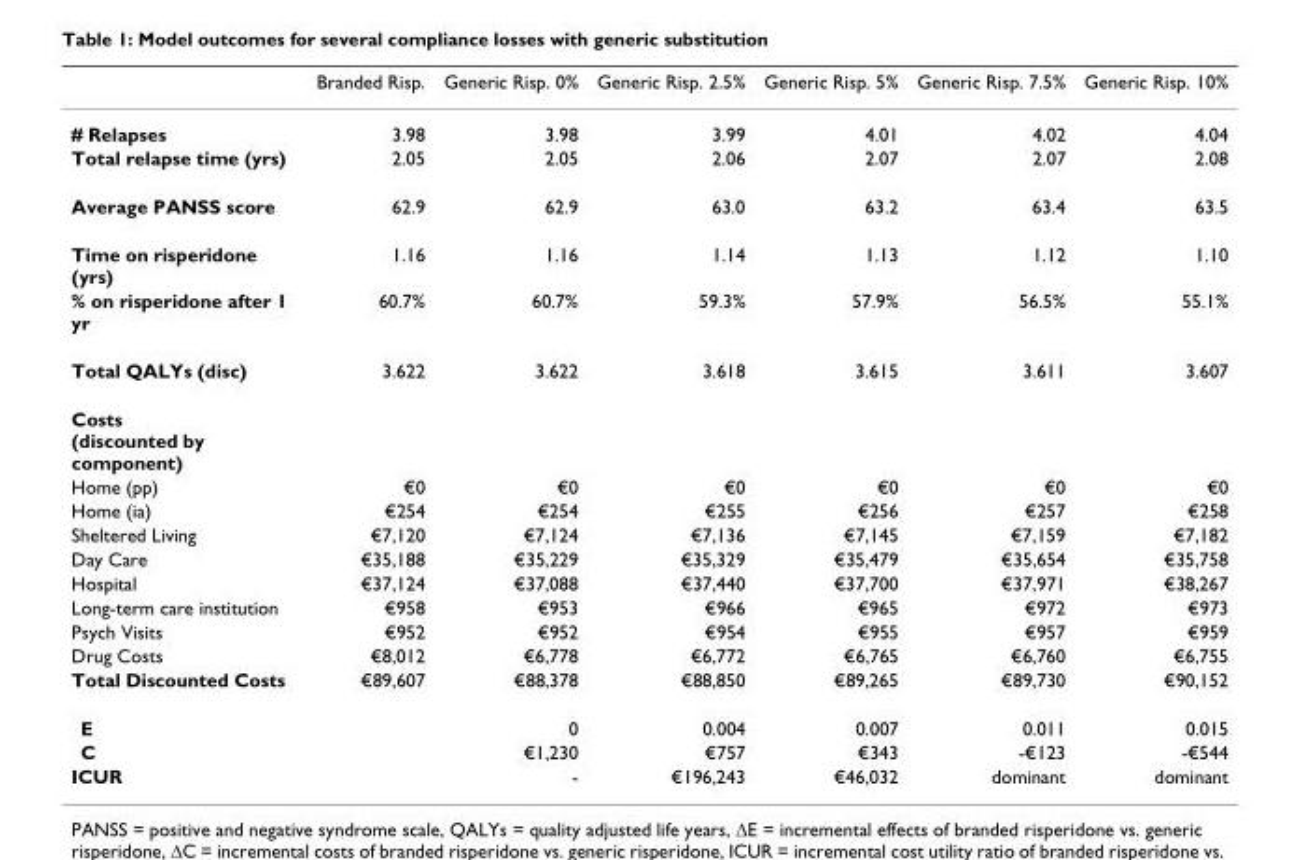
<table><thead><tr><td></td><td>Branded Risp.</td><td>Generic Risp. 0%</td><td>Generic Risp. 2.5%</td><td>Generic Risp. 5%</td><td>Generic Risp. 7.5%</td><td>Generic Risp. 10%</td></tr></thead><tbody><tr><td># Relapses</td><td>3.98</td><td>3.98</td><td>3.99</td><td>4.01</td><td>4.02</td><td>4.04</td></tr><tr><td>Total relapse time (yrs)</td><td>2.05</td><td>2.05</td><td>2.06</td><td>2.07</td><td>2.07</td><td>2.08</td></tr><tr><td>Average PANSS score</td><td>62.9</td><td>62.9</td><td>63.0</td><td>63.2</td><td>63.4</td><td>63.5</td></tr><tr><td>Time on risperidone (yrs)</td><td>1.16</td><td>1.16</td><td>1.14</td><td>1.13</td><td>1.12</td><td>1.10</td></tr><tr><td>% on risperidone after 1 yr</td><td>60.7%</td><td>60.7%</td><td>59.3%</td><td>57.9%</td><td>56.5%</td><td>55.1%</td></tr><tr><td>Total QALYs (disc)</td><td>3.622</td><td>3.622</td><td>3.618</td><td>3.615</td><td>3.611</td><td>3.607</td></tr><tr><td colspan="7">Costs (discounted by component)</td></tr><tr><td>Home (pp)</td><td>€0</td><td>€0</td><td>€0</td><td>€0</td><td>€0</td><td>€0</td></tr><tr><td>Home (ia)</td><td>€254</td><td>€254</td><td>€255</td><td>€256</td><td>€257</td><td>€258</td></tr><tr><td>Sheltered Living</td><td>€7,120</td><td>€7,124</td><td>€7,136</td><td>€7,145</td><td>€7,159</td><td>€7,182</td></tr><tr><td>Day Care</td><td>€35,188</td><td>€35,229</td><td>€35,329</td><td>€35,479</td><td>€35,654</td><td>€35,758</td></tr><tr><td>Hospital</td><td>€37,124</td><td>€37,088</td><td>€37,440</td><td>€37,700</td><td>€37,971</td><td>€38,267</td></tr><tr><td>Long-term care institution</td><td>€958</td><td>€953</td><td>€966</td><td>€965</td><td>€972</td><td>€973</td></tr><tr><td>Psych Visits</td><td>€952</td><td>€952</td><td>€954</td><td>€955</td><td>€957</td><td>€959</td></tr><tr><td>Drug Costs</td><td>€8,012</td><td>€6,778</td><td>€6,772</td><td>€6,765</td><td>€6,760</td><td>€6,755</td></tr><tr><td>Total Discounted Costs</td><td>€89,607</td><td>€88,378</td><td>€88,850</td><td>€89,265</td><td>€89,730</td><td>€90,152</td></tr><tr><td>E</td><td></td><td>0</td><td>0.004</td><td>0.007</td><td>0.011</td><td>0.015</td></tr><tr><td>C</td><td></td><td>€1,230</td><td>€757</td><td>€343</td><td>-€123</td><td>-€544</td></tr><tr><td>ICUR</td><td></td><td>-</td><td>€196,243</td><td>€46,032</td><td>dominant</td><td>dominant</td></tr></tbody></table>